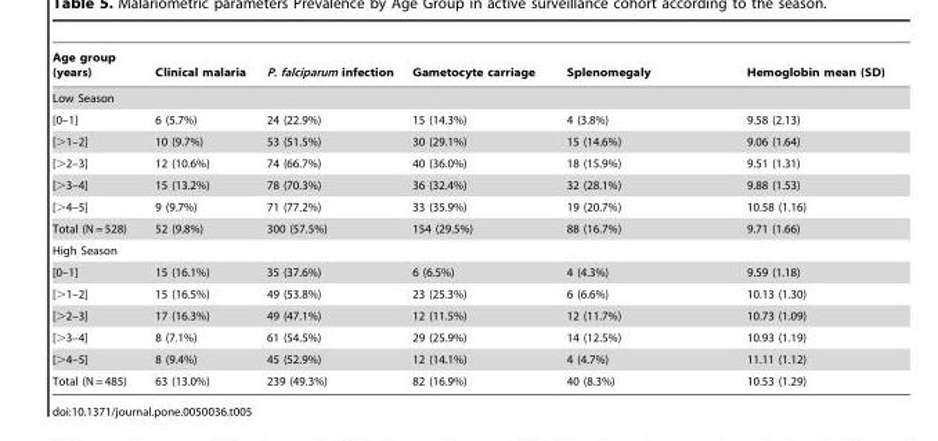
<table><thead><tr><td>Age group (years)</td><td>Clinical malaria</td><td>P. falciparum infection</td><td>Gametocyte carriage</td><td>Splenomegaly</td><td>Hemoglobin mean (SD)</td></tr></thead><tbody><tr><td colspan="6">Low Season</td></tr><tr><td>[0–1]</td><td>6 (5.7%)</td><td>24 (22.9%)</td><td>15 (14.3%)</td><td>4 (3.8%)</td><td>9.58 (2.13)</td></tr><tr><td>[&gt;1–2]</td><td>10 (9.7%)</td><td>53 (51.5%)</td><td>30 (29.1%)</td><td>15 (14.6%)</td><td>9.06 (1.64)</td></tr><tr><td>[&gt;2–3]</td><td>12 (10.6%)</td><td>74 (66.7%)</td><td>40 (36.0%)</td><td>18 (15.9%)</td><td>9.51 (1.31)</td></tr><tr><td>[&gt;3–4]</td><td>15 (13.2%)</td><td>78 (70.3%)</td><td>36 (32.4%)</td><td>32 (28.1%)</td><td>9.88 (1.53)</td></tr><tr><td>[&gt;4–5]</td><td>9 (9.7%)</td><td>71 (77.2%)</td><td>33 (35.9%)</td><td>19 (20.7%)</td><td>10.58 (1.16)</td></tr><tr><td>Total (N = 528)</td><td>52 (9.8%)</td><td>300 (57.5%)</td><td>154 (29.5%)</td><td>88 (16.7%)</td><td>9.71 (1.66)</td></tr><tr><td colspan="6">High Season</td></tr><tr><td>[0–1]</td><td>15 (16.1%)</td><td>35 (37.6%)</td><td>6 (6.5%)</td><td>4 (4.3%)</td><td>9.59 (1.18)</td></tr><tr><td>[&gt;1–2]</td><td>15 (16.5%)</td><td>49 (53.8%)</td><td>23 (25.3%)</td><td>6 (6.6%)</td><td>10.13 (1.30)</td></tr><tr><td>[&gt;2–3]</td><td>17 (16.3%)</td><td>49 (47.1%)</td><td>12 (11.5%)</td><td>12 (11.7%)</td><td>10.73 (1.09)</td></tr><tr><td>[&gt;3–4]</td><td>8 (7.1%)</td><td>61 (54.5%)</td><td>29 (25.9%)</td><td>14 (12.5%)</td><td>10.93 (1.19)</td></tr><tr><td>[&gt;4–5]</td><td>8 (9.4%)</td><td>45 (52.9%)</td><td>12 (14.1%)</td><td>4 (4.7%)</td><td>11.11 (1.12)</td></tr><tr><td>Total (N = 485)</td><td>63 (13.0%)</td><td>239 (49.3%)</td><td>82 (16.9%)</td><td>40 (8.3%)</td><td>10.53 (1.29)</td></tr></tbody></table>